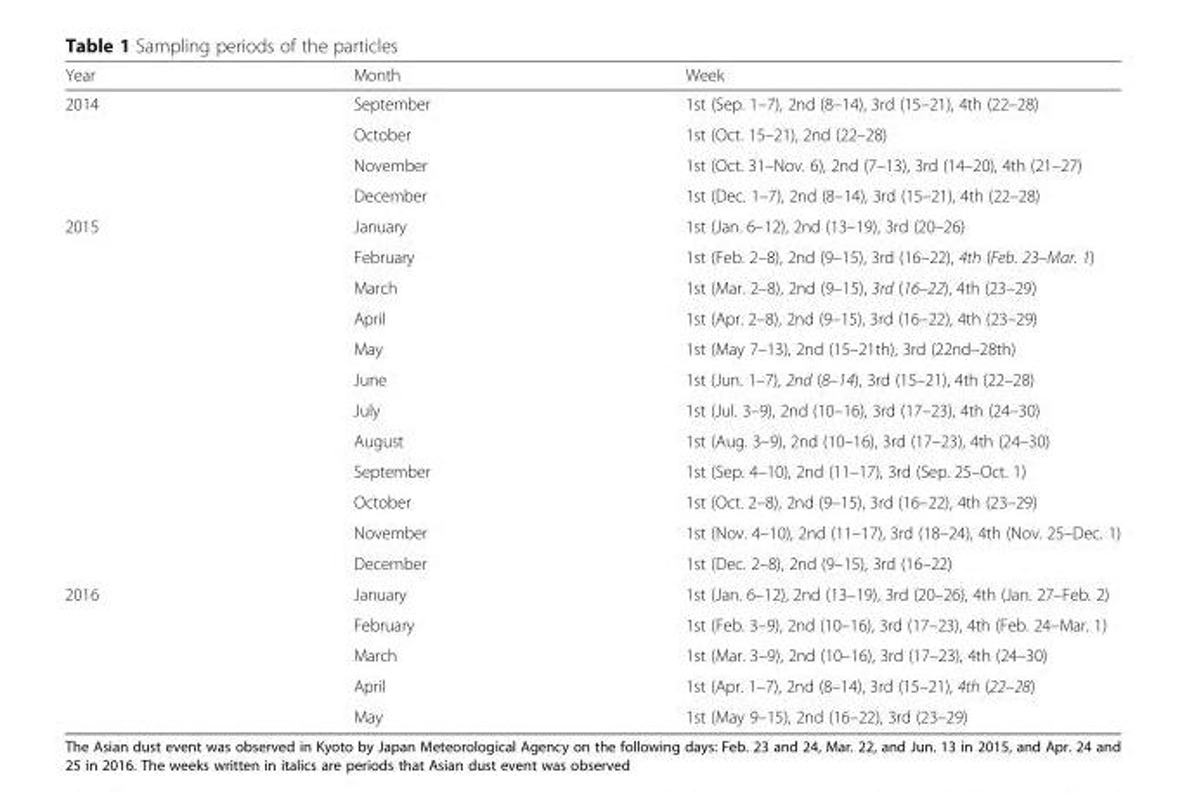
<table><thead><tr><td>Year</td><td>Month</td><td>Week</td></tr></thead><tbody><tr><td rowspan="4">2014</td><td>September</td><td>1st (Sep. 1–7), 2nd (8–14), 3rd (15–21), 4th (22–28)</td></tr><tr><td>October</td><td>1st (Oct. 15–21), 2nd (22–28)</td></tr><tr><td>November</td><td>1st (Oct. 31–Nov. 6), 2nd (7–13), 3rd (14–20), 4th (21–27)</td></tr><tr><td>December</td><td>1st (Dec. 1–7), 2nd (8–14), 3rd (15–21), 4th (22–28)</td></tr><tr><td rowspan="12">2015</td><td>January</td><td>1st (Jan. 6–12), 2nd (13–19), 3rd (20–26)</td></tr><tr><td>February</td><td>1st (Feb. 2–8), 2nd (9–15), 3rd (16–22), 4th (Feb. 23–Mar. 1)</td></tr><tr><td>March</td><td>1st (Mar. 2–8), 2nd (9–15), 3rd (16–22), 4th (23–29)</td></tr><tr><td>April</td><td>1st (Apr. 2–8), 2nd (9–15), 3rd (16–22), 4th (23–29)</td></tr><tr><td>May</td><td>1st (May 7–13), 2nd (15–21th), 3rd (22nd–28th)</td></tr><tr><td>June</td><td>1st (Jun. 1–7), 2nd (8–14), 3rd (15–21), 4th (22–28)</td></tr><tr><td>July</td><td>1st (Jul. 3–9), 2nd (10–16), 3rd (17–23), 4th (24–30)</td></tr><tr><td>August</td><td>1st (Aug. 3–9), 2nd (10–16), 3rd (17–23), 4th (24–30)</td></tr><tr><td>September</td><td>1st (Sep. 4–10), 2nd (11–17), 3rd (Sep. 25–Oct. 1)</td></tr><tr><td>October</td><td>1st (Oct. 2–8), 2nd (9–15), 3rd (16–22), 4th (23–29)</td></tr><tr><td>November</td><td>1st (Nov. 4–10), 2nd (11–17), 3rd (18–24), 4th (Nov. 25–Dec. 1)</td></tr><tr><td>December</td><td>1st (Dec. 2–8), 2nd (9–15), 3rd (16–22)</td></tr><tr><td rowspan="5">2016</td><td>January</td><td>1st (Jan. 6–12), 2nd (13–19), 3rd (20–26), 4th (Jan. 27–Feb. 2)</td></tr><tr><td>February</td><td>1st (Feb. 3–9), 2nd (10–16), 3rd (17–23), 4th (Feb. 24–Mar. 1)</td></tr><tr><td>March</td><td>1st (Mar. 3–9), 2nd (10–16), 3rd (17–23), 4th (24–30)</td></tr><tr><td>April</td><td>1st (Apr. 1–7), 2nd (8–14), 3rd (15–21), 4th (22–28)</td></tr><tr><td>May</td><td>1st (May 9–15), 2nd (16–22), 3rd (23–29)</td></tr></tbody></table>